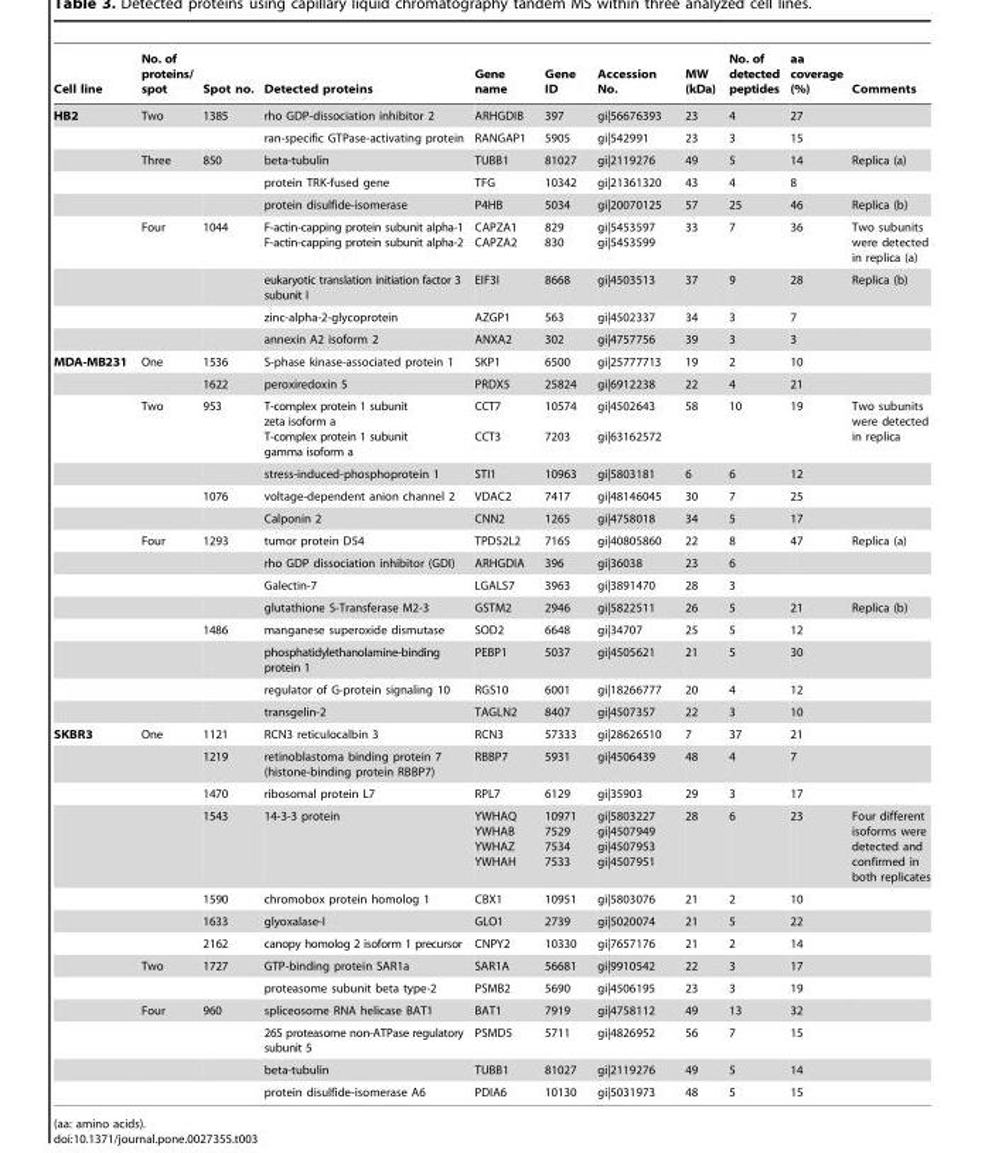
<table><thead><tr><td>Cell line</td><td>No. of proteins/ spot</td><td>Spot no.</td><td>Detected proteins</td><td>Gene name</td><td>Gene ID</td><td>Accession No.</td><td>MW (kDa)</td><td>No. of detected peptides</td><td>aa coverage (%)</td><td>Comments</td></tr></thead><tbody><tr><td rowspan="9">HB2</td><td>Two</td><td>1385</td><td>rho GDP-dissociation inhibitor 2</td><td>ARHGDIB</td><td>397</td><td>gi|56676393</td><td>23</td><td>4</td><td>27</td><td></td></tr><tr><td></td><td></td><td>ran-specific GTPase-activating protein</td><td>RANGAP1</td><td>5905</td><td>gi|542991</td><td>23</td><td>3</td><td>15</td><td></td></tr><tr><td>Three</td><td>850</td><td>beta-tubulin</td><td>TUBB1</td><td>81027</td><td>gi|2119276</td><td>49</td><td>5</td><td>14</td><td>Replica (a)</td></tr><tr><td></td><td></td><td>protein TRK-fused gene</td><td>TFG</td><td>10342</td><td>gi|21361320</td><td>43</td><td>4</td><td>8</td><td></td></tr><tr><td></td><td></td><td>protein disulfide-isomerase</td><td>P4HB</td><td>5034</td><td>gi|20070125</td><td>57</td><td>25</td><td>46</td><td>Replica (b)</td></tr><tr><td>Four</td><td>1044</td><td>F-actin-capping protein subunit alpha-1 F-actin-capping protein subunit alpha-2</td><td>CAPZA1 CAPZA2</td><td>829 830</td><td>gi|5453597 gi|5453599</td><td>33</td><td>7</td><td>36</td><td>Two subunits were detected in replica (a)</td></tr><tr><td></td><td></td><td>eukaryotic translation initiation factor 3 subunit I</td><td>EIF3I</td><td>8668</td><td>gi|4503513</td><td>37</td><td>9</td><td>28</td><td>Replica (b)</td></tr><tr><td></td><td></td><td>zinc-alpha-2-glycoprotein</td><td>AZGP1</td><td>563</td><td>gi|4502337</td><td>34</td><td>3</td><td>7</td><td></td></tr><tr><td></td><td></td><td>annexin A2 isoform 2</td><td>ANXA2</td><td>302</td><td>gi|4757756</td><td>39</td><td>3</td><td>3</td><td></td></tr><tr><td rowspan="14">MDA-MB231</td><td>One</td><td>1536</td><td>S-phase kinase-associated protein 1</td><td>SKP1</td><td>6500</td><td>gi|25777713</td><td>19</td><td>2</td><td>10</td><td></td></tr><tr><td></td><td>1622</td><td>peroxiredoxin 5</td><td>PRDX5</td><td>25824</td><td>gi|6912238</td><td>22</td><td>4</td><td>21</td><td></td></tr><tr><td>Two</td><td>953</td><td>T-complex protein 1 subunit zeta isoform a T-complex protein 1 subunit gamma isoform a</td><td>CCT7 CCT3</td><td>10574 7203</td><td>gi|4502643 gi|63162572</td><td>58</td><td>10</td><td>19</td><td>Two subunits were detected in replica</td></tr><tr><td></td><td></td><td>stress-induced-phosphoprotein 1</td><td>STI1</td><td>10963</td><td>gi|5803181</td><td>6</td><td>6</td><td>12</td><td></td></tr><tr><td></td><td>1076</td><td>voltage-dependent anion channel 2</td><td>VDAC2</td><td>7417</td><td>gi|48146045</td><td>30</td><td>7</td><td>25</td><td></td></tr><tr><td></td><td></td><td>Calponin 2</td><td>CNN2</td><td>1265</td><td>gi|4758018</td><td>34</td><td>5</td><td>17</td><td></td></tr><tr><td>Four</td><td>1293</td><td>tumor protein D54</td><td>TPD52L2</td><td>7165</td><td>gi|40805860</td><td>22</td><td>8</td><td>47</td><td>Replica (a)</td></tr><tr><td></td><td></td><td>rho GDP dissociation inhibitor (GDI)</td><td>ARHGDIA</td><td>396</td><td>gi|36038</td><td>23</td><td>6</td><td></td><td></td></tr><tr><td></td><td></td><td>Galectin-7</td><td>LGALS7</td><td>3963</td><td>gi|3891470</td><td>28</td><td>3</td><td></td><td></td></tr><tr><td></td><td></td><td>glutathione S-Transferase M2-3</td><td>GSTM2</td><td>2946</td><td>gi|5822511</td><td>26</td><td>5</td><td>21</td><td>Replica (b)</td></tr><tr><td></td><td>1486</td><td>manganese superoxide dismutase</td><td>SOD2</td><td>6648</td><td>gi|34707</td><td>25</td><td>5</td><td>12</td><td></td></tr><tr><td></td><td></td><td>phosphatidylethanolamine-binding protein 1</td><td>PEBP1</td><td>5037</td><td>gi|4505621</td><td>21</td><td>5</td><td>30</td><td></td></tr><tr><td></td><td></td><td>regulator of G-protein signaling 10</td><td>RGS10</td><td>6001</td><td>gi|18266777</td><td>20</td><td>4</td><td>12</td><td></td></tr><tr><td></td><td></td><td>transgelin-2</td><td>TAGLN2</td><td>8407</td><td>gi|4507357</td><td>22</td><td>3</td><td>10</td><td></td></tr><tr><td rowspan="13">SKBR3</td><td>One</td><td>1121</td><td>RCN3 reticulocalbin 3</td><td>RCN3</td><td>57333</td><td>gi|28626510</td><td>7</td><td>37</td><td>21</td><td></td></tr><tr><td></td><td>1219</td><td>retinoblastoma binding protein 7 (histone-binding protein RBBP7)</td><td>RBBP7</td><td>5931</td><td>gi|4506439</td><td>48</td><td>4</td><td>7</td><td></td></tr><tr><td></td><td>1470</td><td>ribosomal protein L7</td><td>RPL7</td><td>6129</td><td>gi|35903</td><td>29</td><td>3</td><td>17</td><td></td></tr><tr><td></td><td>1543</td><td>14-3-3 protein</td><td>YWHAQ YWHAB YWHAZ YWHAH</td><td>10971 7529 7534 7533</td><td>gi|5803227 gi|4507949 gi|4507953 gi|4507951</td><td>28</td><td>6</td><td>23</td><td>Four different isoforms were detected and confirmed in both replicates</td></tr><tr><td></td><td>1590</td><td>chromobox protein homolog 1</td><td>CBX1</td><td>10951</td><td>gi|5803076</td><td>21</td><td>2</td><td>10</td><td></td></tr><tr><td></td><td>1633</td><td>glyoxalase-I</td><td>GLO1</td><td>2739</td><td>gi|5020074</td><td>21</td><td>5</td><td>22</td><td></td></tr><tr><td></td><td>2162</td><td>canopy homolog 2 isoform 1 precursor</td><td>CNPY2</td><td>10330</td><td>gi|7657176</td><td>21</td><td>2</td><td>14</td><td></td></tr><tr><td>Two</td><td>1727</td><td>GTP-binding protein SAR1a</td><td>SAR1A</td><td>56681</td><td>gi|9910542</td><td>22</td><td>3</td><td>17</td><td></td></tr><tr><td></td><td></td><td>proteasome subunit beta type-2</td><td>PSMB2</td><td>5690</td><td>gi|4506195</td><td>23</td><td>3</td><td>19</td><td></td></tr><tr><td>Four</td><td>960</td><td>spliceosome RNA helicase BAT1</td><td>BAT1</td><td>7919</td><td>gi|4758112</td><td>49</td><td>13</td><td>32</td><td></td></tr><tr><td></td><td></td><td>26S proteasome non-ATPase regulatory subunit 5</td><td>PSMD5</td><td>5711</td><td>gi|4826952</td><td>56</td><td>7</td><td>15</td><td></td></tr><tr><td></td><td></td><td>beta-tubulin</td><td>TUBB1</td><td>81027</td><td>gi|2119276</td><td>49</td><td>5</td><td>14</td><td></td></tr><tr><td></td><td></td><td>protein disulfide-isomerase A6</td><td>PDIA6</td><td>10130</td><td>gi|5031973</td><td>48</td><td>5</td><td>15</td><td></td></tr></tbody></table>